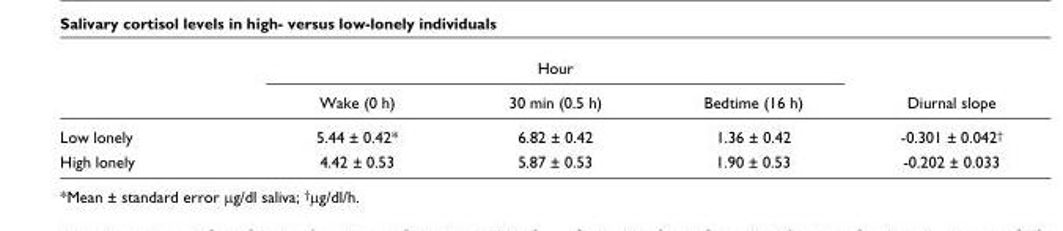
<table><thead><tr><td rowspan="2"></td><td colspan="3">Hour</td><td rowspan="2">Diurnal slope</td></tr><tr><td>Wake (0 h)</td><td>30 min (0.5 h)</td><td>Bedtime (16 h)</td></tr></thead><tbody><tr><td>Low lonely</td><td>5.44 ± 0.42*</td><td>6.82 ± 0.42</td><td>1.36 ± 0.42</td><td>-0.301 ± 0.042<sup>†</sup></td></tr><tr><td>High lonely</td><td>4.42 ± 0.53</td><td>5.87 ± 0.53</td><td>1.90 ± 0.53</td><td>-0.202 ± 0.033</td></tr></tbody></table>